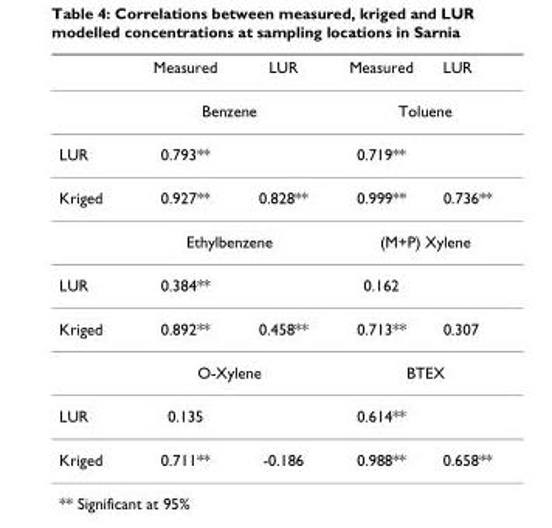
<table><thead><tr><td></td><td>Measured</td><td>LUR</td><td>Measured</td><td>LUR</td></tr></thead><tbody><tr><td></td><td colspan="2">Benzene</td><td colspan="2">Toluene</td></tr><tr><td>LUR</td><td>0.793**</td><td></td><td>0.719**</td><td></td></tr><tr><td rowspan="2">Kriged</td><td>0.927**</td><td>0.828**</td><td>0.999**</td><td>0.736**</td></tr><tr><td colspan="2">Ethylbenzene</td><td colspan="2">(M+P) Xylene</td></tr><tr><td>LUR</td><td>0.384**</td><td></td><td>0.162</td><td></td></tr><tr><td rowspan="2">Kriged</td><td>0.892**</td><td>0.458**</td><td>0.713**</td><td>0.307</td></tr><tr><td colspan="2">O-Xylene</td><td colspan="2">BTEX</td></tr><tr><td>LUR</td><td>0.135</td><td></td><td>0.614**</td><td></td></tr><tr><td>Kriged</td><td>0.711**</td><td>-0.186</td><td>0.988**</td><td>0.658**</td></tr></tbody></table>